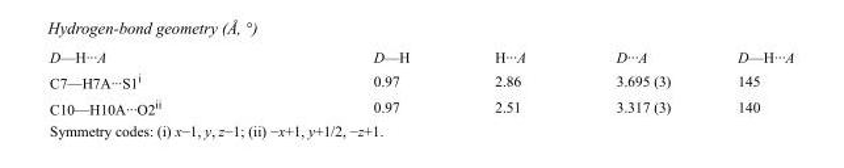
<table><tbody><tr><td>D—H···A</td><td>D—H</td><td>H···A</td><td>D···A</td><td>D—H···A</td></tr><tr><td>C7—H7A···S1<sup>i</sup></td><td>0.97</td><td>2.86</td><td>3.695 (3)</td><td>145</td></tr><tr><td>C10—H10A···O2<sup>ii</sup></td><td>0.97</td><td>2.51</td><td>3.317 (3)</td><td>140</td></tr></tbody></table>